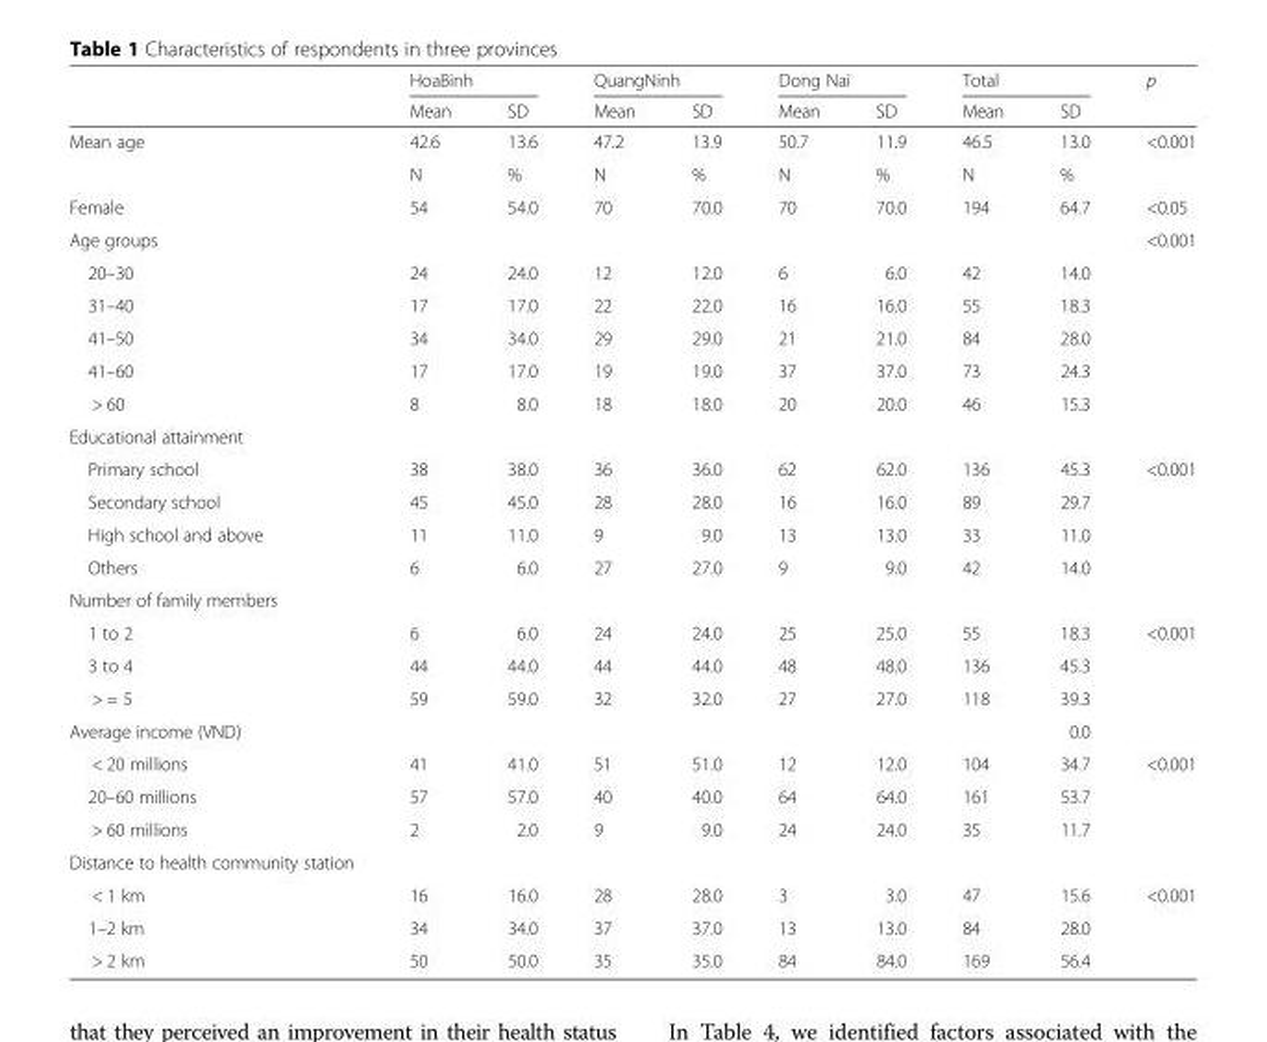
<table><thead><tr><td rowspan="2"></td><td colspan="2">HoaBinh</td><td colspan="2">QuangNinh</td><td colspan="2">Dong Nai</td><td colspan="2">Total</td><td rowspan="2">p</td></tr><tr><td>Mean</td><td>SD</td><td>Mean</td><td>SD</td><td>Mean</td><td>SD</td><td>Mean</td><td>SD</td></tr></thead><tbody><tr><td rowspan="2">Mean age</td><td>42.6</td><td>13.6</td><td>47.2</td><td>13.9</td><td>50.7</td><td>11.9</td><td>46.5</td><td>13.0</td><td>&lt;0.001</td></tr><tr><td>N</td><td>%</td><td>N</td><td>%</td><td>N</td><td>%</td><td>N</td><td>%</td><td></td></tr><tr><td>Female</td><td>54</td><td>54.0</td><td>70</td><td>70.0</td><td>70</td><td>70.0</td><td>194</td><td>64.7</td><td>&lt;0.05</td></tr><tr><td colspan="9">Age groups</td><td rowspan="6">&lt;0.001</td></tr><tr><td>20–30</td><td>24</td><td>24.0</td><td>12</td><td>12.0</td><td>6</td><td>6.0</td><td>42</td><td>14.0</td></tr><tr><td>31–40</td><td>17</td><td>17.0</td><td>22</td><td>22.0</td><td>16</td><td>16.0</td><td>55</td><td>18.3</td></tr><tr><td>41–50</td><td>34</td><td>34.0</td><td>29</td><td>29.0</td><td>21</td><td>21.0</td><td>84</td><td>28.0</td></tr><tr><td>41–60</td><td>17</td><td>17.0</td><td>19</td><td>19.0</td><td>37</td><td>37.0</td><td>73</td><td>24.3</td></tr><tr><td>&gt; 60</td><td>8</td><td>8.0</td><td>18</td><td>18.0</td><td>20</td><td>20.0</td><td>46</td><td>15.3</td></tr><tr><td colspan="10">Educational attainment</td></tr><tr><td>Primary school</td><td>38</td><td>38.0</td><td>36</td><td>36.0</td><td>62</td><td>62.0</td><td>136</td><td>45.3</td><td rowspan="4">&lt;0.001</td></tr><tr><td>Secondary school</td><td>45</td><td>45.0</td><td>28</td><td>28.0</td><td>16</td><td>16.0</td><td>89</td><td>29.7</td></tr><tr><td>High school and above</td><td>11</td><td>11.0</td><td>9</td><td>9.0</td><td>13</td><td>13.0</td><td>33</td><td>11.0</td></tr><tr><td>Others</td><td>6</td><td>6.0</td><td>27</td><td>27.0</td><td>9</td><td>9.0</td><td>42</td><td>14.0</td></tr><tr><td colspan="10">Number of family members</td></tr><tr><td>1 to 2</td><td>6</td><td>6.0</td><td>24</td><td>24.0</td><td>25</td><td>25.0</td><td>55</td><td>18.3</td><td rowspan="3">&lt;0.001</td></tr><tr><td>3 to 4</td><td>44</td><td>44.0</td><td>44</td><td>44.0</td><td>48</td><td>48.0</td><td>136</td><td>45.3</td></tr><tr><td>&gt; = 5</td><td>59</td><td>59.0</td><td>32</td><td>32.0</td><td>27</td><td>27.0</td><td>118</td><td>39.3</td></tr><tr><td>Average income (VND)</td><td></td><td></td><td></td><td></td><td></td><td></td><td></td><td>0.0</td><td></td></tr><tr><td>&lt; 20 millions</td><td>41</td><td>41.0</td><td>51</td><td>51.0</td><td>12</td><td>12.0</td><td>104</td><td>34.7</td><td rowspan="3">&lt;0.001</td></tr><tr><td>20–60 millions</td><td>57</td><td>57.0</td><td>40</td><td>40.0</td><td>64</td><td>64.0</td><td>161</td><td>53.7</td></tr><tr><td>&gt; 60 millions</td><td>2</td><td>2.0</td><td>9</td><td>9.0</td><td>24</td><td>24.0</td><td>35</td><td>11.7</td></tr><tr><td colspan="10">Distance to health community station</td></tr><tr><td>&lt; 1 km</td><td>16</td><td>16.0</td><td>28</td><td>28.0</td><td>3</td><td>3.0</td><td>47</td><td>15.6</td><td rowspan="3">&lt;0.001</td></tr><tr><td>1–2 km</td><td>34</td><td>34.0</td><td>37</td><td>37.0</td><td>13</td><td>13.0</td><td>84</td><td>28.0</td></tr><tr><td>&gt; 2 km</td><td>50</td><td>50.0</td><td>35</td><td>35.0</td><td>84</td><td>84.0</td><td>169</td><td>56.4</td></tr></tbody></table>